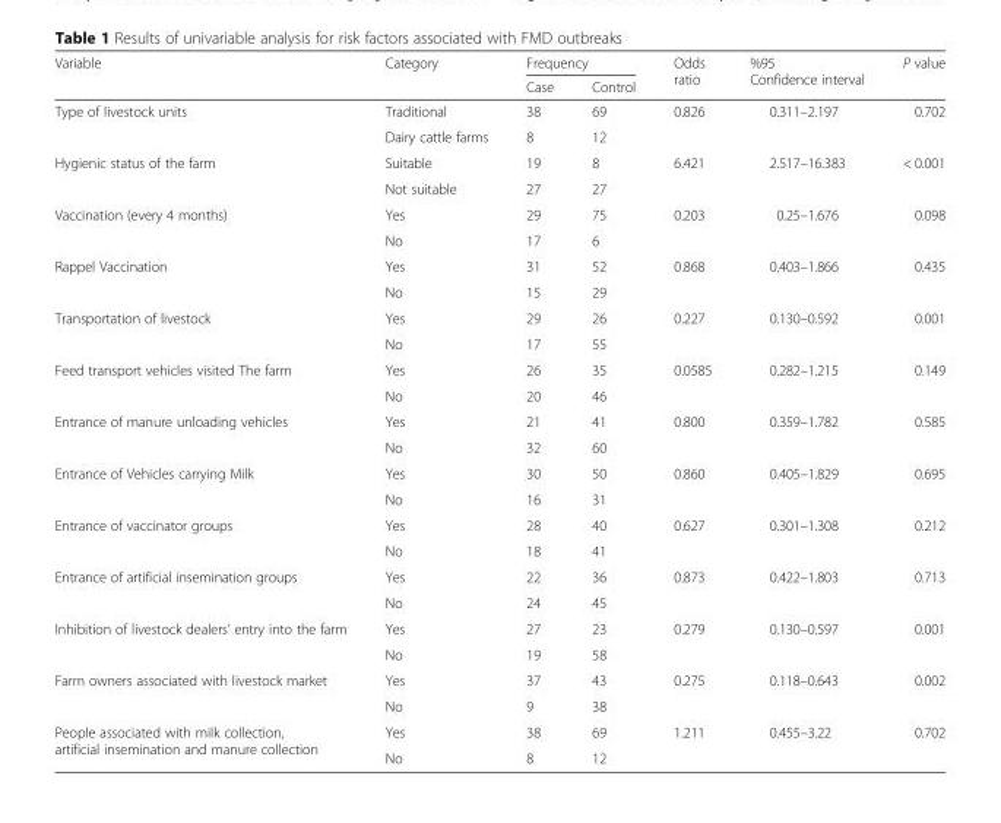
<table><thead><tr><td rowspan="2">Variable</td><td rowspan="2">Category</td><td colspan="2">Frequency</td><td rowspan="2">Odds ratio</td><td rowspan="2">%95 Confidence interval</td><td rowspan="2">P value</td></tr><tr><td>Case</td><td>Control</td></tr></thead><tbody><tr><td rowspan="2">Type of livestock units</td><td>Traditional</td><td>38</td><td>69</td><td>0.826</td><td>0.311–2.197</td><td>0.702</td></tr><tr><td>Dairy cattle farms</td><td>8</td><td>12</td><td></td><td></td><td></td></tr><tr><td rowspan="2">Hygienic status of the farm</td><td>Suitable</td><td>19</td><td>8</td><td>6.421</td><td>2.517–16.383</td><td>&lt; 0.001</td></tr><tr><td>Not suitable</td><td>27</td><td>27</td><td></td><td></td><td></td></tr><tr><td rowspan="2">Vaccination (every 4 months)</td><td>Yes</td><td>29</td><td>75</td><td>0.203</td><td>0.25–1.676</td><td>0.098</td></tr><tr><td>No</td><td>17</td><td>6</td><td></td><td></td><td></td></tr><tr><td rowspan="2">Rappel Vaccination</td><td>Yes</td><td>31</td><td>52</td><td>0.868</td><td>0.403–1.866</td><td>0.435</td></tr><tr><td>No</td><td>15</td><td>29</td><td></td><td></td><td></td></tr><tr><td rowspan="2">Transportation of livestock</td><td>Yes</td><td>29</td><td>26</td><td>0.227</td><td>0.130–0.592</td><td>0.001</td></tr><tr><td>No</td><td>17</td><td>55</td><td></td><td></td><td></td></tr><tr><td rowspan="2">Feed transport vehicles visited The farm</td><td>Yes</td><td>26</td><td>35</td><td>0.0585</td><td>0.282–1.215</td><td>0.149</td></tr><tr><td>No</td><td>20</td><td>46</td><td></td><td></td><td></td></tr><tr><td rowspan="2">Entrance of manure unloading vehicles</td><td>Yes</td><td>21</td><td>41</td><td>0.800</td><td>0.359–1.782</td><td>0.585</td></tr><tr><td>No</td><td>32</td><td>60</td><td></td><td></td><td></td></tr><tr><td rowspan="2">Entrance of Vehicles carrying Milk</td><td>Yes</td><td>30</td><td>50</td><td>0.860</td><td>0.405–1.829</td><td>0.695</td></tr><tr><td>No</td><td>16</td><td>31</td><td></td><td></td><td></td></tr><tr><td rowspan="2">Entrance of vaccinator groups</td><td>Yes</td><td>28</td><td>40</td><td>0.627</td><td>0.301–1.308</td><td>0.212</td></tr><tr><td>No</td><td>18</td><td>41</td><td></td><td></td><td></td></tr><tr><td rowspan="2">Entrance of artificial insemination groups</td><td>Yes</td><td>22</td><td>36</td><td>0.873</td><td>0.422–1.803</td><td>0.713</td></tr><tr><td>No</td><td>24</td><td>45</td><td></td><td></td><td></td></tr><tr><td rowspan="2">Inhibition of livestock dealers’ entry into the farm</td><td>Yes</td><td>27</td><td>23</td><td>0.279</td><td>0.130–0.597</td><td>0.001</td></tr><tr><td>No</td><td>19</td><td>58</td><td></td><td></td><td></td></tr><tr><td rowspan="2">Farm owners associated with livestock market</td><td>Yes</td><td>37</td><td>43</td><td>0.275</td><td>0.118–0.643</td><td>0.002</td></tr><tr><td>No</td><td>9</td><td>38</td><td></td><td></td><td></td></tr><tr><td rowspan="2">People associated with milk collection, artificial insemination and manure collection</td><td>Yes</td><td>38</td><td>69</td><td>1.211</td><td>0.455–3.22</td><td>0.702</td></tr><tr><td>No</td><td>8</td><td>12</td><td></td><td></td><td></td></tr></tbody></table>